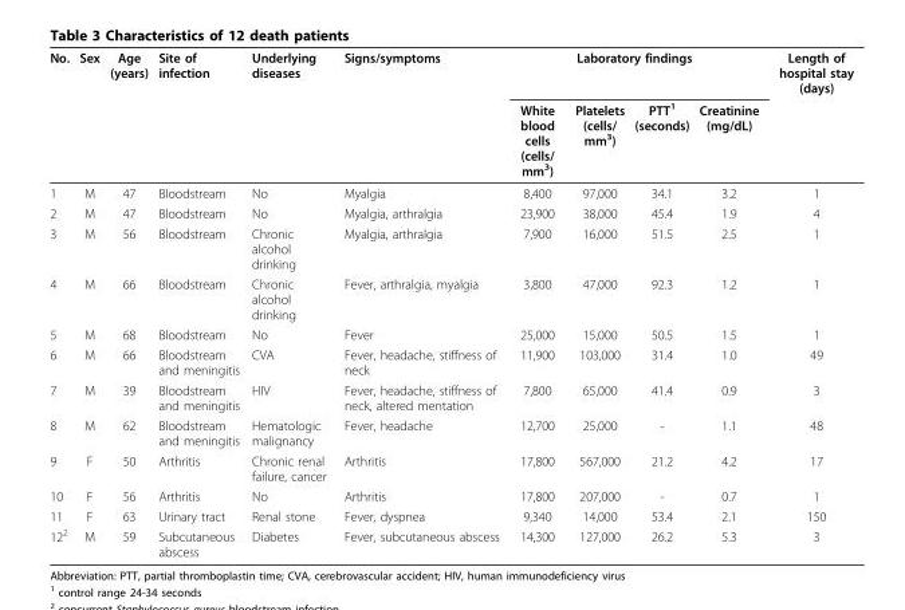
<table><thead><tr><td rowspan="2">No.</td><td rowspan="2">Sex</td><td rowspan="2">Age (years)</td><td rowspan="2">Site of infection</td><td rowspan="2">Underlying diseases</td><td rowspan="2">Signs/symptoms</td><td colspan="4">Laboratory findings</td><td rowspan="2">Length of hospital stay (days)</td></tr><tr><td>White blood cells (cells/ mm<sup>3</sup>)</td><td>Platelets (cells/ mm<sup>3</sup>)</td><td>PTT<sup>1</sup> (seconds)</td><td>Creatinine (mg/dL)</td></tr></thead><tbody><tr><td>1</td><td>M</td><td>47</td><td>Bloodstream</td><td>No</td><td>Myalgia</td><td>8,400</td><td>97,000</td><td>34.1</td><td>3.2</td><td>1</td></tr><tr><td>2</td><td>M</td><td>47</td><td>Bloodstream</td><td>No</td><td>Myalgia, arthralgia</td><td>23,900</td><td>38,000</td><td>45.4</td><td>1.9</td><td>4</td></tr><tr><td>3</td><td>M</td><td>56</td><td>Bloodstream</td><td>Chronic alcohol drinking</td><td>Myalgia, arthralgia</td><td>7,900</td><td>16,000</td><td>51.5</td><td>2.5</td><td>1</td></tr><tr><td>4</td><td>M</td><td>66</td><td>Bloodstream</td><td>Chronic alcohol drinking</td><td>Fever, arthralgia, myalgia</td><td>3,800</td><td>47,000</td><td>92.3</td><td>1.2</td><td>1</td></tr><tr><td>5</td><td>M</td><td>68</td><td>Bloodstream</td><td>No</td><td>Fever</td><td>25,000</td><td>15,000</td><td>50.5</td><td>1.5</td><td>1</td></tr><tr><td>6</td><td>M</td><td>66</td><td>Bloodstream and meningitis</td><td>CVA</td><td>Fever, headache, stiffness of neck</td><td>11,900</td><td>103,000</td><td>31.4</td><td>1.0</td><td>49</td></tr><tr><td>7</td><td>M</td><td>39</td><td>Bloodstream and meningitis</td><td>HIV</td><td>Fever, headache, stiffness of neck, altered mentation</td><td>7,800</td><td>65,000</td><td>41.4</td><td>0.9</td><td>3</td></tr><tr><td>8</td><td>M</td><td>62</td><td>Bloodstream and meningitis</td><td>Hematologic malignancy</td><td>Fever, headache</td><td>12,700</td><td>25,000</td><td>-</td><td>1.1</td><td>48</td></tr><tr><td>9</td><td>F</td><td>50</td><td>Arthritis</td><td>Chronic renal failure, cancer</td><td>Arthritis</td><td>17,800</td><td>567,000</td><td>21.2</td><td>4.2</td><td>17</td></tr><tr><td>10</td><td>F</td><td>56</td><td>Arthritis</td><td>No</td><td>Arthritis</td><td>17,800</td><td>207,000</td><td>-</td><td>0.7</td><td>1</td></tr><tr><td>11</td><td>F</td><td>63</td><td>Urinary tract</td><td>Renal stone</td><td>Fever, dyspnea</td><td>9,340</td><td>14,000</td><td>53.4</td><td>2.1</td><td>150</td></tr><tr><td>12<sup>2</sup></td><td>M</td><td>59</td><td>Subcutaneous abscess</td><td>Diabetes</td><td>Fever, subcutaneous abscess</td><td>14,300</td><td>127,000</td><td>26.2</td><td>5.3</td><td>3</td></tr></tbody></table>